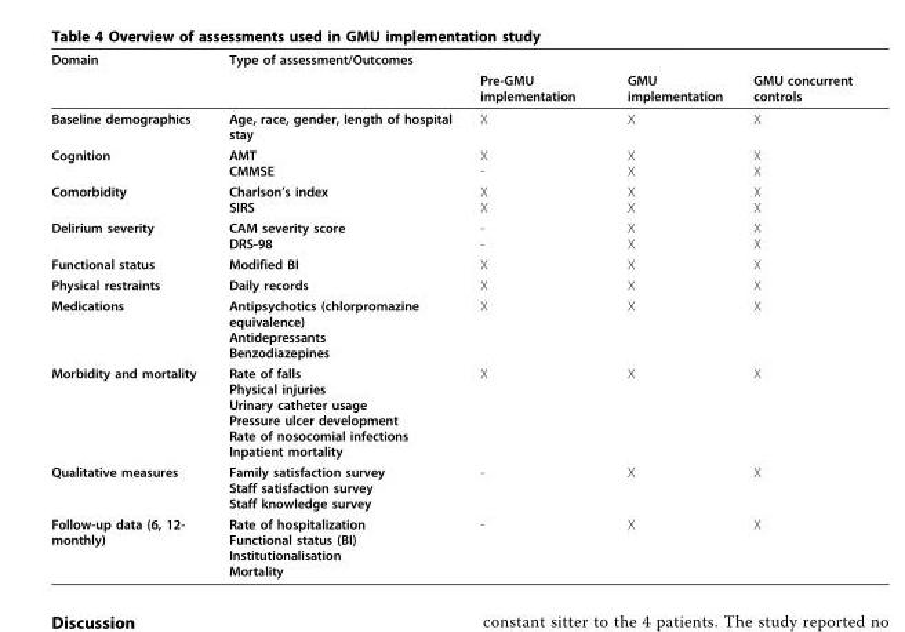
<table><thead><tr><td rowspan="2">Domain</td><td rowspan="2">Type of assessment/Outcomes</td><td rowspan="2">Pre-GMU implementation</td><td rowspan="2">GMU implementation</td><td rowspan="2">GMU concurrent controls</td></tr><tr></tr></thead><tbody><tr><td>Baseline demographics</td><td>Age, race, gender, length of hospital stay</td><td>X</td><td>X</td><td>X</td></tr><tr><td>Cognition</td><td>AMT CMMSE</td><td>X -</td><td>X X</td><td>X X</td></tr><tr><td>Comorbidity</td><td>Charlson’s index SIRS</td><td>X X</td><td>X X</td><td>X X</td></tr><tr><td>Delirium severity</td><td>CAM severity score DRS-98</td><td>- -</td><td>X X</td><td>X X</td></tr><tr><td>Functional status</td><td>Modified BI</td><td>X</td><td>X</td><td>X</td></tr><tr><td>Physical restraints</td><td>Daily records</td><td>X</td><td>X</td><td>X</td></tr><tr><td>Medications</td><td>Antipsychotics (chlorpromazine equivalence) Antidepressants Benzodiazepines</td><td>X</td><td>X</td><td>X</td></tr><tr><td>Morbidity and mortality</td><td>Rate of falls Physical injuries Urinary catheter usage Pressure ulcer development Rate of nosocomial infections Inpatient mortality</td><td>X</td><td>X</td><td>X</td></tr><tr><td>Qualitative measures</td><td>Family satisfaction survey Staff satisfaction survey Staff knowledge survey</td><td>-</td><td>X</td><td>X</td></tr><tr><td>Follow-up data (6, 12- monthly)</td><td>Rate of hospitalization Functional status (BI) Institutionalisation Mortality</td><td>-</td><td>X</td><td>X</td></tr></tbody></table>